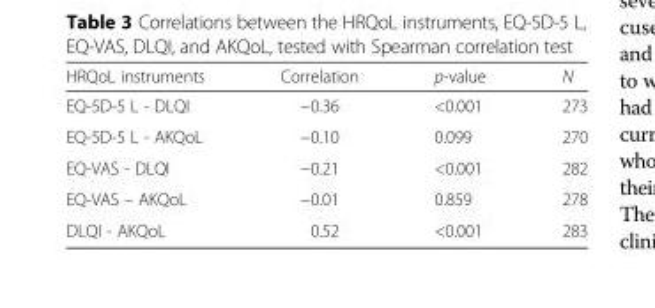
<table><thead><tr><td>HRQoL instruments</td><td>Correlation</td><td>p-value</td><td>N</td></tr></thead><tbody><tr><td>EQ-5D-5 L - DLQI</td><td>−0.36</td><td>&lt;0.001</td><td>273</td></tr><tr><td>EQ-5D-5 L - AKQoL</td><td>−0.10</td><td>0.099</td><td>270</td></tr><tr><td>EQ-VAS - DLQI</td><td>−0.21</td><td>&lt;0.001</td><td>282</td></tr><tr><td>EQ-VAS – AKQoL</td><td>−0.01</td><td>0.859</td><td>278</td></tr><tr><td>DLQI - AKQoL</td><td>0.52</td><td>&lt;0.001</td><td>283</td></tr></tbody></table>